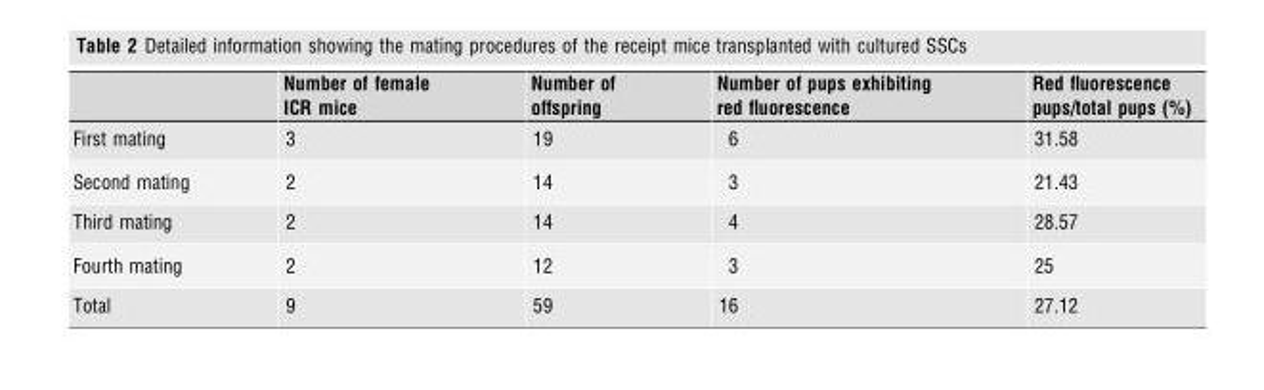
<table><thead><tr><td></td><td>Number of female ICR mice</td><td>Number of offspring</td><td>Number of pups exhibiting red fluorescence</td><td>Red fluorescence pups/total pups (%)</td></tr></thead><tbody><tr><td>First mating</td><td>3</td><td>19</td><td>6</td><td>31.58</td></tr><tr><td>Second mating</td><td>2</td><td>14</td><td>3</td><td>21.43</td></tr><tr><td>Third mating</td><td>2</td><td>14</td><td>4</td><td>28.57</td></tr><tr><td>Fourth mating</td><td>2</td><td>12</td><td>3</td><td>25</td></tr><tr><td>Total</td><td>9</td><td>59</td><td>16</td><td>27.12</td></tr></tbody></table>